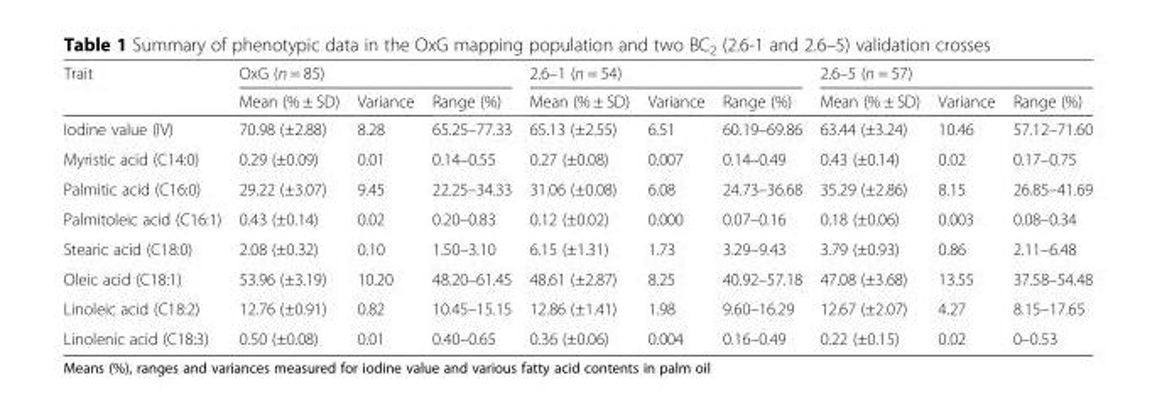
<table><thead><tr><td rowspan="2">Trait</td><td colspan="3">OxG (n = 85)</td><td colspan="3">2.6–1 (n = 54)</td><td colspan="3">2.6–5 (n = 57)</td></tr><tr><td>Mean (% ± SD)</td><td>Variance</td><td>Range (%)</td><td>Mean (% ± SD)</td><td>Variance</td><td>Range (%)</td><td>Mean (% ± SD)</td><td>Variance</td><td>Range (%)</td></tr></thead><tbody><tr><td>Iodine value (IV)</td><td>70.98 (±2.88)</td><td>8.28</td><td>65.25–77.33</td><td>65.13 (±2.55)</td><td>6.51</td><td>60.19–69.86</td><td>63.44 (±3.24)</td><td>10.46</td><td>57.12–71.60</td></tr><tr><td>Myristic acid (C14:0)</td><td>0.29 (±0.09)</td><td>0.01</td><td>0.14–0.55</td><td>0.27 (±0.08)</td><td>0.007</td><td>0.14–0.49</td><td>0.43 (±0.14)</td><td>0.02</td><td>0.17–0.75</td></tr><tr><td>Palmitic acid (C16:0)</td><td>29.22 (±3.07)</td><td>9.45</td><td>22.25–34.33</td><td>31.06 (±0.08)</td><td>6.08</td><td>24.73–36.68</td><td>35.29 (±2.86)</td><td>8.15</td><td>26.85–41.69</td></tr><tr><td>Palmitoleic acid (C16:1)</td><td>0.43 (±0.14)</td><td>0.02</td><td>0.20–0.83</td><td>0.12 (±0.02)</td><td>0.000</td><td>0.07–0.16</td><td>0.18 (±0.06)</td><td>0.003</td><td>0.08–0.34</td></tr><tr><td>Stearic acid (C18:0)</td><td>2.08 (±0.32)</td><td>0.10</td><td>1.50–3.10</td><td>6.15 (±1.31)</td><td>1.73</td><td>3.29–9.43</td><td>3.79 (±0.93)</td><td>0.86</td><td>2.11–6.48</td></tr><tr><td>Oleic acid (C18:1)</td><td>53.96 (±3.19)</td><td>10.20</td><td>48.20–61.45</td><td>48.61 (±2.87)</td><td>8.25</td><td>40.92–57.18</td><td>47.08 (±3.68)</td><td>13.55</td><td>37.58–54.48</td></tr><tr><td>Linoleic acid (C18:2)</td><td>12.76 (±0.91)</td><td>0.82</td><td>10.45–15.15</td><td>12.86 (±1.41)</td><td>1.98</td><td>9.60–16.29</td><td>12.67 (±2.07)</td><td>4.27</td><td>8.15–17.65</td></tr><tr><td>Linolenic acid (C18:3)</td><td>0.50 (±0.08)</td><td>0.01</td><td>0.40–0.65</td><td>0.36 (±0.06)</td><td>0.004</td><td>0.16–0.49</td><td>0.22 (±0.15)</td><td>0.02</td><td>0–0.53</td></tr></tbody></table>